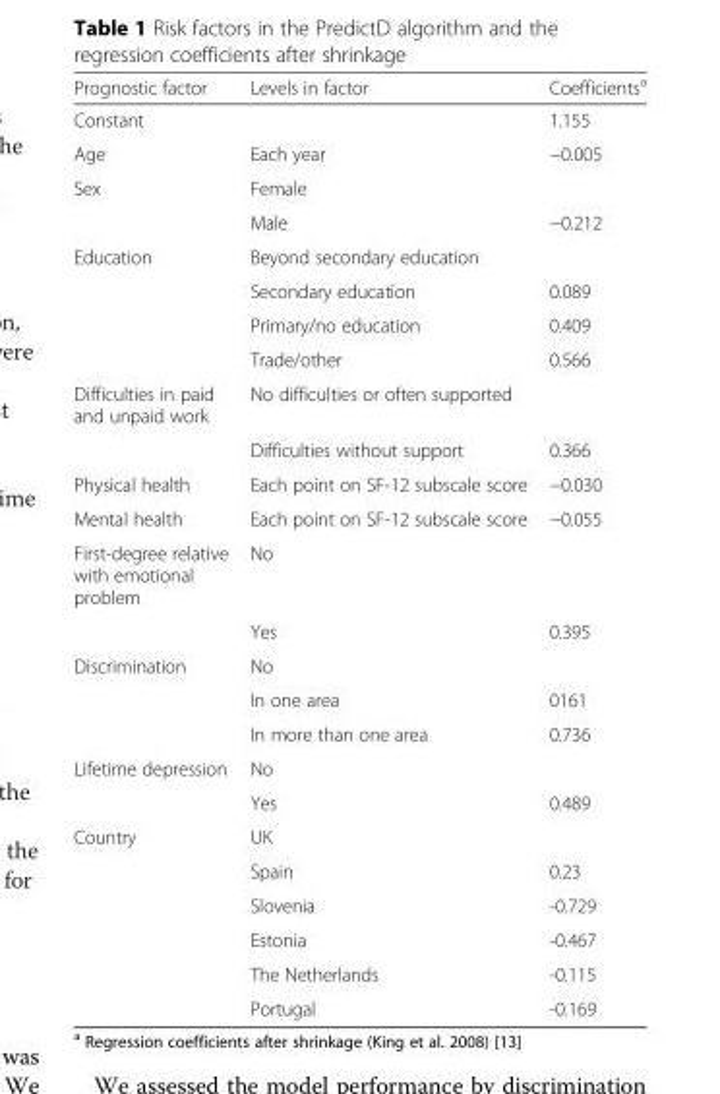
<table><thead><tr><td>Prognostic factor</td><td>Levels in factor</td><td>Coefficients<sup>a</sup></td></tr></thead><tbody><tr><td>Constant</td><td></td><td>1.155</td></tr><tr><td>Age</td><td>Each year</td><td>−0.005</td></tr><tr><td rowspan="2">Sex</td><td>Female</td><td></td></tr><tr><td>Male</td><td>−0.212</td></tr><tr><td rowspan="4">Education</td><td>Beyond secondary education</td><td></td></tr><tr><td>Secondary education</td><td>0.089</td></tr><tr><td>Primary/no education</td><td>0.409</td></tr><tr><td>Trade/other</td><td>0.566</td></tr><tr><td rowspan="2">Difficulties in paid and unpaid work</td><td>No difficulties or often supported</td><td></td></tr><tr><td>Difficulties without support</td><td>0.366</td></tr><tr><td>Physical health</td><td>Each point on SF-12 subscale score</td><td>−0.030</td></tr><tr><td>Mental health</td><td>Each point on SF-12 subscale score</td><td>−0.055</td></tr><tr><td rowspan="2">First-degree relative with emotional problem</td><td>No</td><td></td></tr><tr><td>Yes</td><td>0.395</td></tr><tr><td rowspan="3">Discrimination</td><td>No</td><td></td></tr><tr><td>In one area</td><td>0161</td></tr><tr><td>In more than one area</td><td>0.736</td></tr><tr><td rowspan="2">Lifetime depression</td><td>No</td><td></td></tr><tr><td>Yes</td><td>0.489</td></tr><tr><td rowspan="6">Country</td><td>UK</td><td></td></tr><tr><td>Spain</td><td>0.23</td></tr><tr><td>Slovenia</td><td>-0.729</td></tr><tr><td>Estonia</td><td>-0.467</td></tr><tr><td>The Netherlands</td><td>-0.115</td></tr><tr><td>Portugal</td><td>-0.169</td></tr></tbody></table>